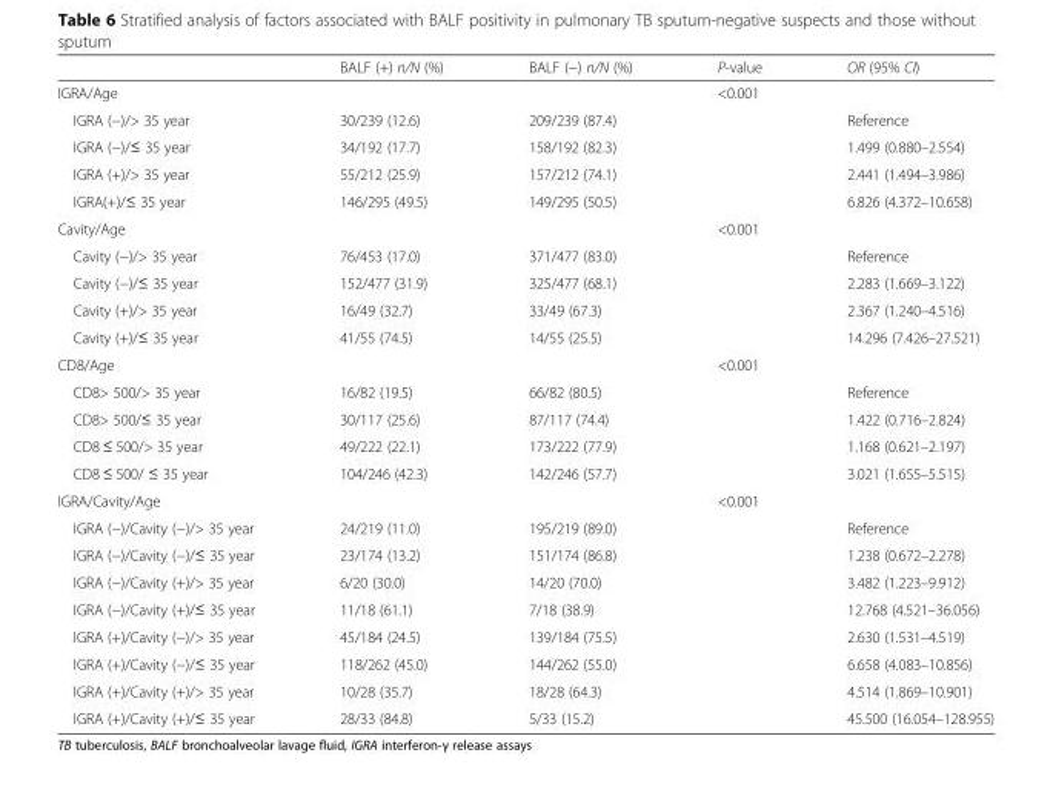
<table><thead><tr><td></td><td>BALF (+) n/N (%)</td><td>BALF (−) n/N (%)</td><td>P-value</td><td>OR (95% CI)</td></tr></thead><tbody><tr><td>IGRA/Age</td><td></td><td></td><td>&lt;0.001</td><td></td></tr><tr><td>IGRA (−)/&gt; 35 year</td><td>30/239 (12.6)</td><td>209/239 (87.4)</td><td></td><td>Reference</td></tr><tr><td>IGRA (−)/≤ 35 year</td><td>34/192 (17.7)</td><td>158/192 (82.3)</td><td></td><td>1.499 (0.880–2.554)</td></tr><tr><td>IGRA (+)/&gt; 35 year</td><td>55/212 (25.9)</td><td>157/212 (74.1)</td><td></td><td>2.441 (1.494–3.986)</td></tr><tr><td>IGRA(+)/≤ 35 year</td><td>146/295 (49.5)</td><td>149/295 (50.5)</td><td></td><td>6.826 (4.372–10.658)</td></tr><tr><td>Cavity/Age</td><td></td><td></td><td>&lt;0.001</td><td></td></tr><tr><td>Cavity (−)/&gt; 35 year</td><td>76/453 (17.0)</td><td>371/477 (83.0)</td><td></td><td>Reference</td></tr><tr><td>Cavity (−)/≤ 35 year</td><td>152/477 (31.9)</td><td>325/477 (68.1)</td><td></td><td>2.283 (1.669–3.122)</td></tr><tr><td>Cavity (+)/&gt; 35 year</td><td>16/49 (32.7)</td><td>33/49 (67.3)</td><td></td><td>2.367 (1.240–4.516)</td></tr><tr><td>Cavity (+)/≤ 35 year</td><td>41/55 (74.5)</td><td>14/55 (25.5)</td><td></td><td>14.296 (7.426–27.521)</td></tr><tr><td>CD8/Age</td><td></td><td></td><td>&lt;0.001</td><td></td></tr><tr><td>CD8&gt; 500/&gt; 35 year</td><td>16/82 (19.5)</td><td>66/82 (80.5)</td><td></td><td>Reference</td></tr><tr><td>CD8&gt; 500/≤ 35 year</td><td>30/117 (25.6)</td><td>87/117 (74.4)</td><td></td><td>1.422 (0.716–2.824)</td></tr><tr><td>CD8 ≤ 500/&gt; 35 year</td><td>49/222 (22.1)</td><td>173/222 (77.9)</td><td></td><td>1.168 (0.621–2.197)</td></tr><tr><td>CD8 ≤ 500/ ≤ 35 year</td><td>104/246 (42.3)</td><td>142/246 (57.7)</td><td></td><td>3.021 (1.655–5.515)</td></tr><tr><td>IGRA/Cavity/Age</td><td></td><td></td><td>&lt;0.001</td><td></td></tr><tr><td>IGRA (−)/Cavity (−)/&gt; 35 year</td><td>24/219 (11.0)</td><td>195/219 (89.0)</td><td></td><td>Reference</td></tr><tr><td>IGRA (−)/Cavity (−)/≤ 35 year</td><td>23/174 (13.2)</td><td>151/174 (86.8)</td><td></td><td>1.238 (0.672–2.278)</td></tr><tr><td>IGRA (−)/Cavity (+)/&gt; 35 year</td><td>6/20 (30.0)</td><td>14/20 (70.0)</td><td></td><td>3.482 (1.223–9.912)</td></tr><tr><td>IGRA (−)/Cavity (+)/≤ 35 year</td><td>11/18 (61.1)</td><td>7/18 (38.9)</td><td></td><td>12.768 (4.521–36.056)</td></tr><tr><td>IGRA (+)/Cavity (−)/&gt; 35 year</td><td>45/184 (24.5)</td><td>139/184 (75.5)</td><td></td><td>2.630 (1.531–4.519)</td></tr><tr><td>IGRA (+)/Cavity (−)/≤ 35 year</td><td>118/262 (45.0)</td><td>144/262 (55.0)</td><td></td><td>6.658 (4.083–10.856)</td></tr><tr><td>IGRA (+)/Cavity (+)/&gt; 35 year</td><td>10/28 (35.7)</td><td>18/28 (64.3)</td><td></td><td>4.514 (1.869–10.901)</td></tr><tr><td>IGRA (+)/Cavity (+)/≤ 35 year</td><td>28/33 (84.8)</td><td>5/33 (15.2)</td><td></td><td>45.500 (16.054–128.955)</td></tr></tbody></table>